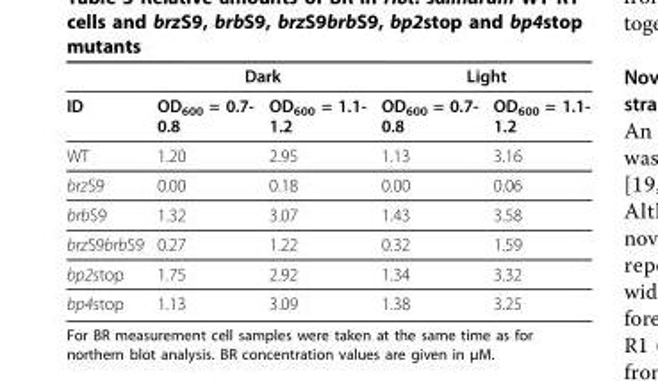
<table><thead><tr><td rowspan="2">ID</td><td colspan="2">Dark</td><td colspan="2">Light</td></tr><tr><td>OD600 = 0.7- 0.8</td><td>OD600 = 1.1- 1.2</td><td>OD600 = 0.7- 0.8</td><td>OD600 = 1.1- 1.2</td></tr></thead><tbody><tr><td>WT</td><td>1.20</td><td>2.95</td><td>1.13</td><td>3.16</td></tr><tr><td>brzS9</td><td>0.00</td><td>0.18</td><td>0.00</td><td>0.06</td></tr><tr><td>brbS9</td><td>1.32</td><td>3.07</td><td>1.43</td><td>3.58</td></tr><tr><td>brzS9brbS9</td><td>0.27</td><td>1.22</td><td>0.32</td><td>1.59</td></tr><tr><td>bp2stop</td><td>1.75</td><td>2.92</td><td>1.34</td><td>3.32</td></tr><tr><td>bp4stop</td><td>1.13</td><td>3.09</td><td>1.38</td><td>3.25</td></tr></tbody></table>